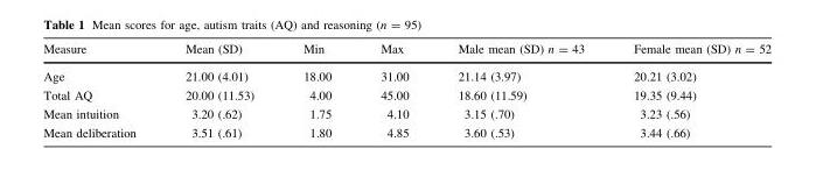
<table><thead><tr><td>Measure</td><td>Mean (SD)</td><td>Min</td><td>Max</td><td>Male mean (SD) n = 43</td><td>Female mean (SD) n = 52</td></tr></thead><tbody><tr><td>Age</td><td>21.00 (4.01)</td><td>18.00</td><td>31.00</td><td>21.14 (3.97)</td><td>20.21 (3.02)</td></tr><tr><td>Total AQ</td><td>20.00 (11.53)</td><td>4.00</td><td>45.00</td><td>18.60 (11.59)</td><td>19.35 (9.44)</td></tr><tr><td>Mean intuition</td><td>3.20 (.62)</td><td>1.75</td><td>4.10</td><td>3.15 (.70)</td><td>3.23 (.56)</td></tr><tr><td>Mean deliberation</td><td>3.51 (.61)</td><td>1.80</td><td>4.85</td><td>3.60 (.53)</td><td>3.44 (.66)</td></tr></tbody></table>